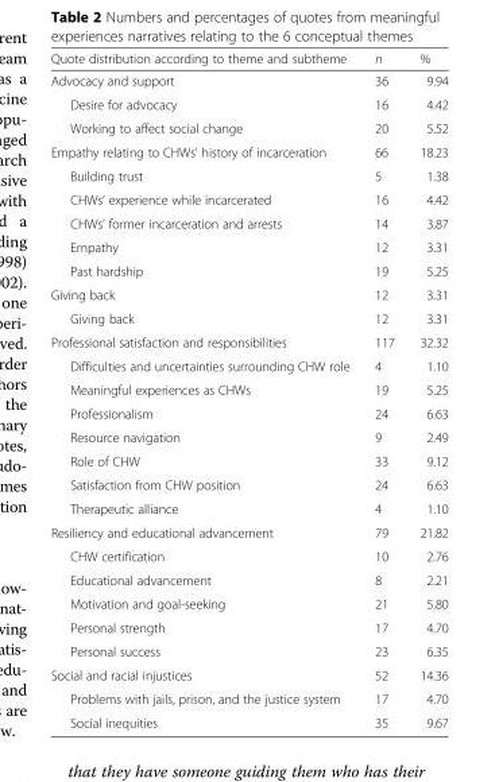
<table><thead><tr><td>Quote distribution according to theme and subtheme</td><td>n</td><td>%</td></tr></thead><tbody><tr><td>Advocacy and support</td><td>36</td><td>9.94</td></tr><tr><td>Desire for advocacy</td><td>16</td><td>4.42</td></tr><tr><td>Working to affect social change</td><td>20</td><td>5.52</td></tr><tr><td>Empathy relating to CHWs’ history of incarceration</td><td>66</td><td>18.23</td></tr><tr><td>Building trust</td><td>5</td><td>1.38</td></tr><tr><td>CHWs’ experience while incarcerated</td><td>16</td><td>4.42</td></tr><tr><td>CHWs’ former incarceration and arrests</td><td>14</td><td>3.87</td></tr><tr><td>Empathy</td><td>12</td><td>3.31</td></tr><tr><td>Past hardship</td><td>19</td><td>5.25</td></tr><tr><td>Giving back</td><td>12</td><td>3.31</td></tr><tr><td>Giving back</td><td>12</td><td>3.31</td></tr><tr><td>Professional satisfaction and responsibilities</td><td>117</td><td>32.32</td></tr><tr><td>Difficulties and uncertainties surrounding CHW role</td><td>4</td><td>1.10</td></tr><tr><td>Meaningful experiences as CHWs</td><td>19</td><td>5.25</td></tr><tr><td>Professionalism</td><td>24</td><td>6.63</td></tr><tr><td>Resource navigation</td><td>9</td><td>2.49</td></tr><tr><td>Role of CHW</td><td>33</td><td>9.12</td></tr><tr><td>Satisfaction from CHW position</td><td>24</td><td>6.63</td></tr><tr><td>Therapeutic alliance</td><td>4</td><td>1.10</td></tr><tr><td>Resiliency and educational advancement</td><td>79</td><td>21.82</td></tr><tr><td>CHW certification</td><td>10</td><td>2.76</td></tr><tr><td>Educational advancement</td><td>8</td><td>2.21</td></tr><tr><td>Motivation and goal-seeking</td><td>21</td><td>5.80</td></tr><tr><td>Personal strength</td><td>17</td><td>4.70</td></tr><tr><td>Personal success</td><td>23</td><td>6.35</td></tr><tr><td>Social and racial injustices</td><td>52</td><td>14.36</td></tr><tr><td>Problems with jails, prison, and the justice system</td><td>17</td><td>4.70</td></tr><tr><td>Social inequities</td><td>35</td><td>9.67</td></tr></tbody></table>